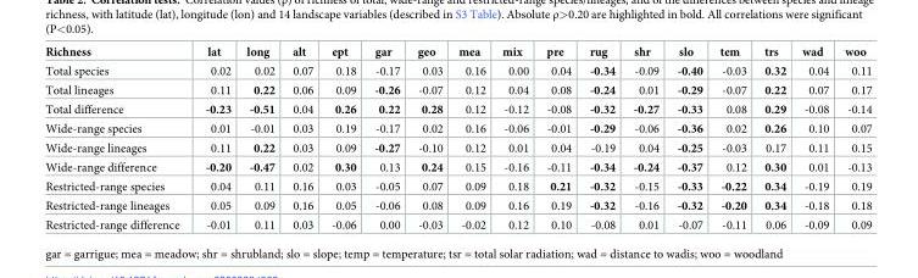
<table><thead><tr><td>Richness</td><td>lat</td><td>long</td><td>alt</td><td>ept</td><td>gar</td><td>geo</td><td>mea</td><td>mix</td><td>pre</td><td>rug</td><td>shr</td><td>slo</td><td>tem</td><td>trs</td><td>wad</td><td>woo</td></tr></thead><tbody><tr><td>Total species</td><td>0.02</td><td>0.02</td><td>0.07</td><td>0.18</td><td>-0.17</td><td>0.03</td><td>0.16</td><td>0.00</td><td>0.04</td><td>-0.34</td><td>-0.09</td><td>-0.40</td><td>-0.03</td><td>0.32</td><td>0.04</td><td>0.11</td></tr><tr><td>Total lineages</td><td>0.11</td><td>0.22</td><td>0.06</td><td>0.09</td><td>-0.26</td><td>-0.07</td><td>0.12</td><td>0.04</td><td>0.08</td><td>-0.24</td><td>0.01</td><td>-0.29</td><td>-0.07</td><td>0.22</td><td>0.07</td><td>0.17</td></tr><tr><td>Total difference</td><td>-0.23</td><td>-0.51</td><td>0.04</td><td>0.26</td><td>0.22</td><td>0.28</td><td>0.12</td><td>-0.12</td><td>-0.08</td><td>-0.32</td><td>-0.27</td><td>-0.33</td><td>0.08</td><td>0.29</td><td>-0.08</td><td>-0.14</td></tr><tr><td>Wide-range species</td><td>0.01</td><td>-0.01</td><td>0.03</td><td>0.19</td><td>-0.17</td><td>0.02</td><td>0.16</td><td>-0.06</td><td>-0.01</td><td>-0.29</td><td>-0.06</td><td>-0.36</td><td>0.02</td><td>0.26</td><td>0.10</td><td>0.07</td></tr><tr><td>Wide-range lineages</td><td>0.11</td><td>0.22</td><td>0.03</td><td>0.09</td><td>-0.27</td><td>-0.10</td><td>0.12</td><td>0.01</td><td>0.04</td><td>-0.19</td><td>0.04</td><td>-0.25</td><td>-0.03</td><td>0.17</td><td>0.11</td><td>0.15</td></tr><tr><td>Wide-range difference</td><td>-0.20</td><td>-0.47</td><td>0.02</td><td>0.30</td><td>0.13</td><td>0.24</td><td>0.15</td><td>-0.16</td><td>-0.11</td><td>-0.34</td><td>-0.24</td><td>-0.37</td><td>0.12</td><td>0.30</td><td>0.01</td><td>-0.13</td></tr><tr><td>Restricted-range species</td><td>0.04</td><td>0.11</td><td>0.16</td><td>0.03</td><td>-0.05</td><td>0.07</td><td>0.09</td><td>0.18</td><td>0.21</td><td>-0.32</td><td>-0.15</td><td>-0.33</td><td>-0.22</td><td>0.34</td><td>-0.19</td><td>0.19</td></tr><tr><td>Restricted-range lineages</td><td>0.05</td><td>0.09</td><td>0.16</td><td>0.05</td><td>-0.06</td><td>0.08</td><td>0.09</td><td>0.16</td><td>0.19</td><td>-0.32</td><td>-0.16</td><td>-0.32</td><td>-0.20</td><td>0.34</td><td>-0.18</td><td>0.18</td></tr><tr><td>Restricted-range difference</td><td>-0.01</td><td>0.11</td><td>0.03</td><td>-0.06</td><td>0.00</td><td>-0.03</td><td>-0.02</td><td>0.12</td><td>0.10</td><td>-0.08</td><td>0.01</td><td>-0.07</td><td>-0.11</td><td>0.06</td><td>-0.09</td><td>0.09</td></tr></tbody></table>